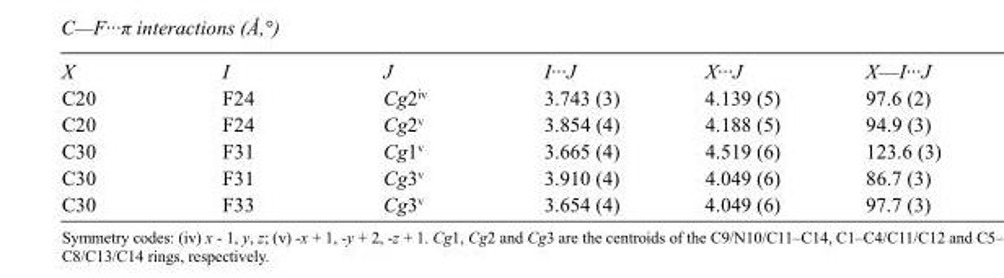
<table><tbody><tr><td>X</td><td>I</td><td>J</td><td>I···J</td><td>X···J</td><td>X—I···J</td></tr><tr><td>C20</td><td>F24</td><td>Cg2<sup>iv</sup></td><td>3.743 (3)</td><td>4.139 (5)</td><td>97.6 (2)</td></tr><tr><td>C20</td><td>F24</td><td>Cg2<sup>v</sup></td><td>3.854 (4)</td><td>4.188 (5)</td><td>94.9 (3)</td></tr><tr><td>C30</td><td>F31</td><td>Cg1<sup>v</sup></td><td>3.665 (4)</td><td>4.519 (6)</td><td>123.6 (3)</td></tr><tr><td>C30</td><td>F31</td><td>Cg3<sup>v</sup></td><td>3.910 (4)</td><td>4.049 (6)</td><td>86.7 (3)</td></tr><tr><td>C30</td><td>F33</td><td>Cg3<sup>v</sup></td><td>3.654 (4)</td><td>4.049 (6)</td><td>97.7 (3)</td></tr></tbody></table>